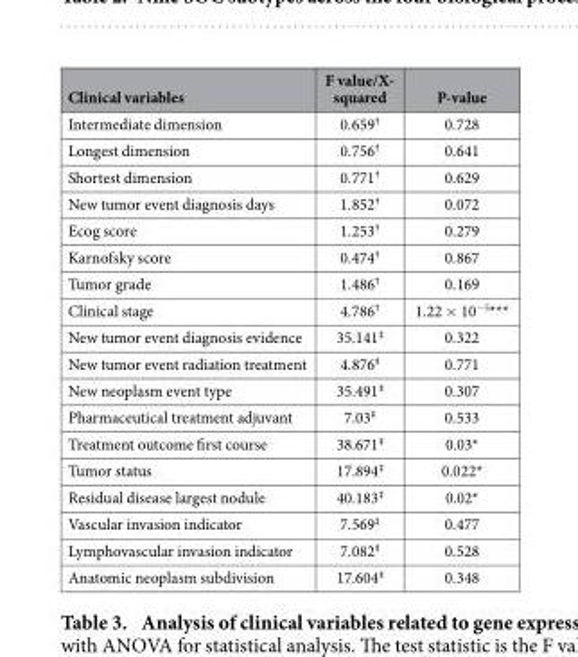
<table><thead><tr><td>Clinical variables</td><td>F value/X- squared</td><td>P-value</td></tr></thead><tbody><tr><td>Intermediate dimension</td><td>0.659†</td><td>0.728</td></tr><tr><td>Longest dimension</td><td>0.756†</td><td>0.641</td></tr><tr><td>Shortest dimension</td><td>0.771†</td><td>0.629</td></tr><tr><td>New tumor event diagnosis days</td><td>1.852†</td><td>0.072</td></tr><tr><td>Ecog score</td><td>1.253†</td><td>0.279</td></tr><tr><td>Karnofsky score</td><td>0.474†</td><td>0.867</td></tr><tr><td>Tumor grade</td><td>1.486†</td><td>0.169</td></tr><tr><td>Clinical stage</td><td>4.786<sup>†</sup></td><td>1.22 × 10<sup>−5</sup>***</td></tr><tr><td>New tumor event diagnosis evidence</td><td>35.141‡</td><td>0.322</td></tr><tr><td>New tumor event radiation treatment</td><td>4.876‡</td><td>0.771</td></tr><tr><td>New neoplasm event type</td><td>35.491‡</td><td>0.307</td></tr><tr><td>Pharmaceutical treatment adjuvant</td><td>7.03‡</td><td>0.533</td></tr><tr><td>Treatment outcome first course</td><td>38.671‡</td><td>0.03*</td></tr><tr><td>Tumor status</td><td>17.894‡</td><td>0.022*</td></tr><tr><td>Residual disease largest nodule</td><td>40.183‡</td><td>0.02*</td></tr><tr><td>Vascular invasion indicator</td><td>7.569‡</td><td>0.477</td></tr><tr><td>Lymphovascular invasion indicator</td><td>7.082‡</td><td>0.528</td></tr><tr><td>Anatomic neoplasm subdivision</td><td>17.604‡</td><td>0.348</td></tr></tbody></table>